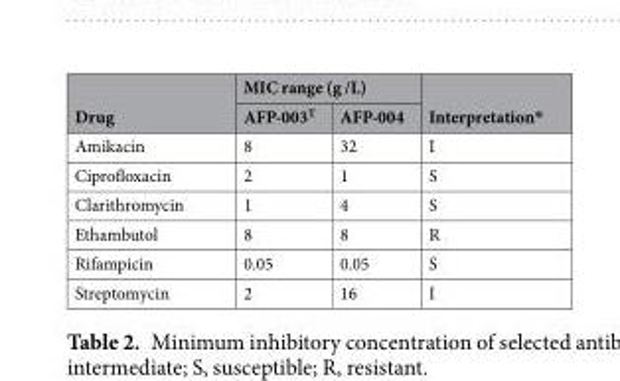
<table><thead><tr><td rowspan="2">Drug</td><td colspan="2">MIC range (g /L)</td><td rowspan="2">Interpretation*</td></tr><tr><td>AFP-003<sup>T</sup></td><td>AFP-004</td></tr></thead><tbody><tr><td>Amikacin</td><td>8</td><td>32</td><td>I</td></tr><tr><td>Ciprofloxacin</td><td>2</td><td>1</td><td>S</td></tr><tr><td>Clarithromycin</td><td>1</td><td>4</td><td>S</td></tr><tr><td>Ethambutol</td><td>8</td><td>8</td><td>R</td></tr><tr><td>Rifampicin</td><td>0.05</td><td>0.05</td><td>S</td></tr><tr><td>Streptomycin</td><td>2</td><td>16</td><td>I</td></tr></tbody></table>